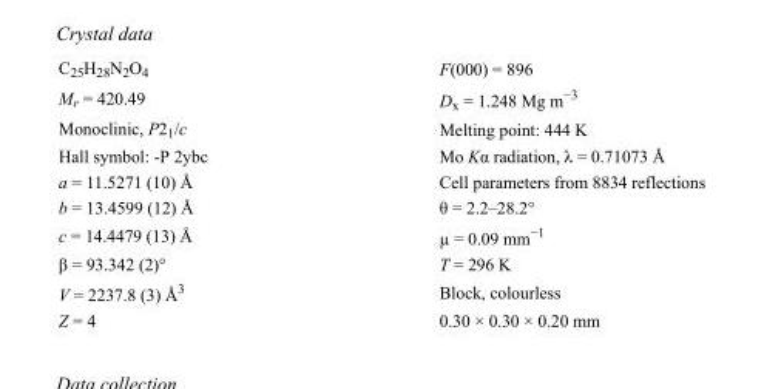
<table><tbody><tr><td>C<sub>25</sub>H<sub>28</sub>N<sub>2</sub>O<sub>4</sub></td><td>F(000) = 896</td></tr><tr><td>M<sub>r</sub> = 420.49</td><td>D<sub>x</sub> = 1.248 Mg m<sup>−3</sup></td></tr><tr><td>Monoclinic, P2<sub>1</sub>/c</td><td>Melting point: 444 K</td></tr><tr><td>Hall symbol: -P 2ybc</td><td>Mo Kα radiation, λ = 0.71073 Å</td></tr><tr><td>a = 11.5271 (10) Å</td><td>Cell parameters from 8834 reflections</td></tr><tr><td>b = 13.4599 (12) Å</td><td>θ = 2.2–28.2°</td></tr><tr><td>c = 14.4479 (13) Å</td><td>µ = 0.09 mm<sup>−1</sup></td></tr><tr><td>β = 93.342 (2)°</td><td>T = 296 K</td></tr><tr><td>V = 2237.8 (3) Å<sup>3</sup></td><td>Block, colourless</td></tr><tr><td>Z = 4</td><td>0.30 × 0.30 × 0.20 mm</td></tr></tbody></table>